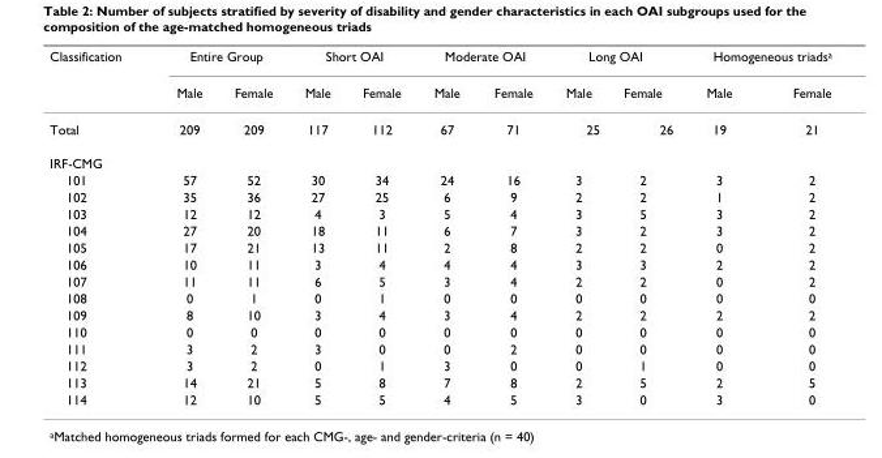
<table><thead><tr><td rowspan="2">Classification</td><td colspan="2">Entire Group</td><td colspan="2">Short OAI</td><td colspan="2">Moderate OAI</td><td colspan="2">Long OAI</td><td colspan="2">Homogeneous triadsa</td></tr><tr><td>Male</td><td>Female</td><td>Male</td><td>Female</td><td>Male</td><td>Female</td><td>Male</td><td>Female</td><td>Male</td><td>Female</td></tr></thead><tbody><tr><td>Total</td><td>209</td><td>209</td><td>117</td><td>112</td><td>67</td><td>71</td><td>25</td><td>26</td><td>19</td><td>21</td></tr><tr><td colspan="11">IRF-CMG</td></tr><tr><td>101</td><td>57</td><td>52</td><td>30</td><td>34</td><td>24</td><td>16</td><td>3</td><td>2</td><td>3</td><td>2</td></tr><tr><td>102</td><td>35</td><td>36</td><td>27</td><td>25</td><td>6</td><td>9</td><td>2</td><td>2</td><td>1</td><td>2</td></tr><tr><td>103</td><td>12</td><td>12</td><td>4</td><td>3</td><td>5</td><td>4</td><td>3</td><td>5</td><td>3</td><td>2</td></tr><tr><td>104</td><td>27</td><td>20</td><td>18</td><td>11</td><td>6</td><td>7</td><td>3</td><td>2</td><td>3</td><td>2</td></tr><tr><td>105</td><td>17</td><td>21</td><td>13</td><td>11</td><td>2</td><td>8</td><td>2</td><td>2</td><td>0</td><td>2</td></tr><tr><td>106</td><td>10</td><td>11</td><td>3</td><td>4</td><td>4</td><td>4</td><td>3</td><td>3</td><td>2</td><td>2</td></tr><tr><td>107</td><td>11</td><td>11</td><td>6</td><td>5</td><td>3</td><td>4</td><td>2</td><td>2</td><td>0</td><td>2</td></tr><tr><td>108</td><td>0</td><td>1</td><td>0</td><td>1</td><td>0</td><td>0</td><td>0</td><td>0</td><td>0</td><td>0</td></tr><tr><td>109</td><td>8</td><td>10</td><td>3</td><td>4</td><td>3</td><td>4</td><td>2</td><td>2</td><td>2</td><td>2</td></tr><tr><td>110</td><td>0</td><td>0</td><td>0</td><td>0</td><td>0</td><td>0</td><td>0</td><td>0</td><td>0</td><td>0</td></tr><tr><td>111</td><td>3</td><td>2</td><td>3</td><td>0</td><td>0</td><td>2</td><td>0</td><td>0</td><td>0</td><td>0</td></tr><tr><td>112</td><td>3</td><td>2</td><td>0</td><td>1</td><td>3</td><td>0</td><td>0</td><td>1</td><td>0</td><td>0</td></tr><tr><td>113</td><td>14</td><td>21</td><td>5</td><td>8</td><td>7</td><td>8</td><td>2</td><td>5</td><td>2</td><td>5</td></tr><tr><td>114</td><td>12</td><td>10</td><td>5</td><td>5</td><td>4</td><td>5</td><td>3</td><td>0</td><td>3</td><td>0</td></tr></tbody></table>